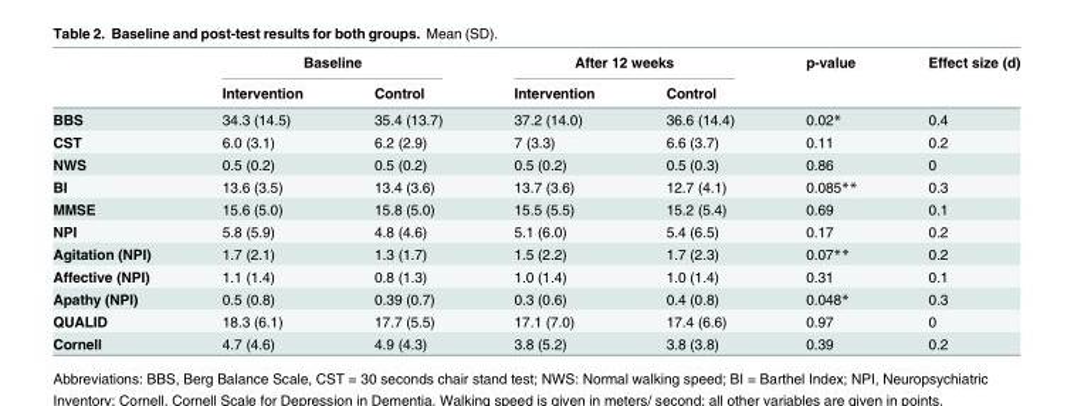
<table><thead><tr><td rowspan="2"></td><td colspan="2">Baseline</td><td colspan="2">After 12 weeks</td><td rowspan="2">p-value</td><td rowspan="2">Effect size (d)</td></tr><tr><td>Intervention</td><td>Control</td><td>Intervention</td><td>Control</td></tr></thead><tbody><tr><td>BBS</td><td>34.3 (14.5)</td><td>35.4 (13.7)</td><td>37.2 (14.0)</td><td>36.6 (14.4)</td><td>0.02*</td><td>0.4</td></tr><tr><td>CST</td><td>6.0 (3.1)</td><td>6.2 (2.9)</td><td>7 (3.3)</td><td>6.6 (3.7)</td><td>0.11</td><td>0.2</td></tr><tr><td>NWS</td><td>0.5 (0.2)</td><td>0.5 (0.2)</td><td>0.5 (0.2)</td><td>0.5 (0.3)</td><td>0.86</td><td>0</td></tr><tr><td>BI</td><td>13.6 (3.5)</td><td>13.4 (3.6)</td><td>13.7 (3.6)</td><td>12.7 (4.1)</td><td>0.085**</td><td>0.3</td></tr><tr><td>MMSE</td><td>15.6 (5.0)</td><td>15.8 (5.0)</td><td>15.5 (5.5)</td><td>15.2 (5.4)</td><td>0.69</td><td>0.1</td></tr><tr><td>NPI</td><td>5.8 (5.9)</td><td>4.8 (4.6)</td><td>5.1 (6.0)</td><td>5.4 (6.5)</td><td>0.17</td><td>0.2</td></tr><tr><td>Agitation (NPI)</td><td>1.7 (2.1)</td><td>1.3 (1.7)</td><td>1.5 (2.2)</td><td>1.7 (2.3)</td><td>0.07**</td><td>0.2</td></tr><tr><td>Affective (NPI)</td><td>1.1 (1.4)</td><td>0.8 (1.3)</td><td>1.0 (1.4)</td><td>1.0 (1.4)</td><td>0.31</td><td>0.1</td></tr><tr><td>Apathy (NPI)</td><td>0.5 (0.8)</td><td>0.39 (0.7)</td><td>0.3 (0.6)</td><td>0.4 (0.8)</td><td>0.048*</td><td>0.3</td></tr><tr><td>QUALID</td><td>18.3 (6.1)</td><td>17.7 (5.5)</td><td>17.1 (7.0)</td><td>17.4 (6.6)</td><td>0.97</td><td>0</td></tr><tr><td>Cornell</td><td>4.7 (4.6)</td><td>4.9 (4.3)</td><td>3.8 (5.2)</td><td>3.8 (3.8)</td><td>0.39</td><td>0.2</td></tr></tbody></table>